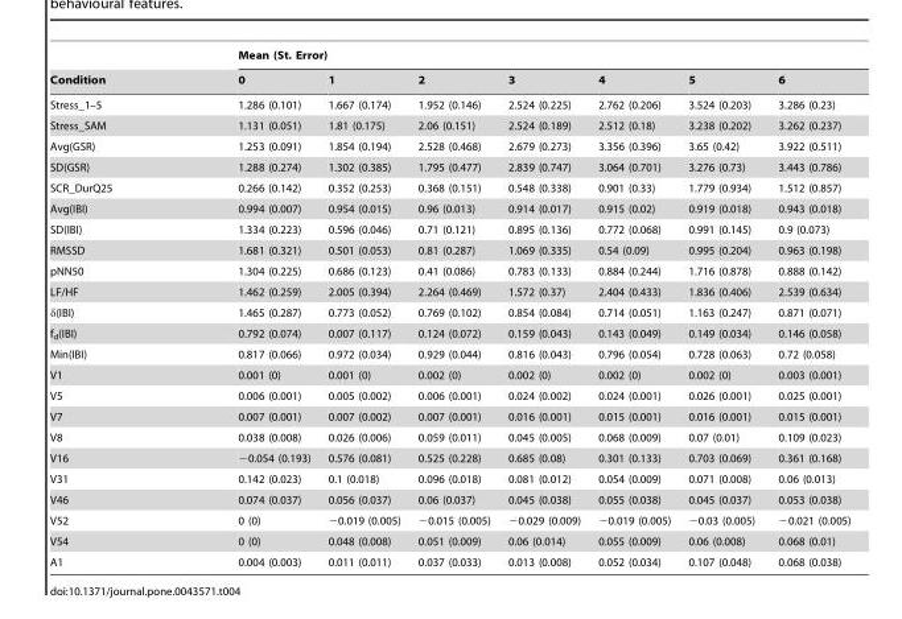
<table><thead><tr><td rowspan="2">Condition</td><td colspan="7">Mean (St. Error)</td></tr><tr><td>0</td><td>1</td><td>2</td><td>3</td><td>4</td><td>5</td><td>6</td></tr></thead><tbody><tr><td>Stress_1–5</td><td>1.286 (0.101)</td><td>1.667 (0.174)</td><td>1.952 (0.146)</td><td>2.524 (0.225)</td><td>2.762 (0.206)</td><td>3.524 (0.203)</td><td>3.286 (0.23)</td></tr><tr><td>Stress_SAM</td><td>1.131 (0.051)</td><td>1.81 (0.175)</td><td>2.06 (0.151)</td><td>2.524 (0.189)</td><td>2.512 (0.18)</td><td>3.238 (0.202)</td><td>3.262 (0.237)</td></tr><tr><td>Avg(GSR)</td><td>1.253 (0.091)</td><td>1.854 (0.194)</td><td>2.528 (0.468)</td><td>2.679 (0.273)</td><td>3.356 (0.396)</td><td>3.65 (0.42)</td><td>3.922 (0.511)</td></tr><tr><td>SD(GSR)</td><td>1.288 (0.274)</td><td>1.302 (0.385)</td><td>1.795 (0.477)</td><td>2.839 (0.747)</td><td>3.064 (0.701)</td><td>3.276 (0.73)</td><td>3.443 (0.786)</td></tr><tr><td>SCR_DurQ25</td><td>0.266 (0.142)</td><td>0.352 (0.253)</td><td>0.368 (0.151)</td><td>0.548 (0.338)</td><td>0.901 (0.33)</td><td>1.779 (0.934)</td><td>1.512 (0.857)</td></tr><tr><td>Avg(IBI)</td><td>0.994 (0.007)</td><td>0.954 (0.015)</td><td>0.96 (0.013)</td><td>0.914 (0.017)</td><td>0.915 (0.02)</td><td>0.919 (0.018)</td><td>0.943 (0.018)</td></tr><tr><td>SD(IBI)</td><td>1.334 (0.223)</td><td>0.596 (0.046)</td><td>0.71 (0.121)</td><td>0.895 (0.136)</td><td>0.772 (0.068)</td><td>0.991 (0.145)</td><td>0.9 (0.073)</td></tr><tr><td>RMSSD</td><td>1.681 (0.321)</td><td>0.501 (0.053)</td><td>0.81 (0.287)</td><td>1.069 (0.335)</td><td>0.54 (0.09)</td><td>0.995 (0.204)</td><td>0.963 (0.198)</td></tr><tr><td>pNN50</td><td>1.304 (0.225)</td><td>0.686 (0.123)</td><td>0.41 (0.086)</td><td>0.783 (0.133)</td><td>0.884 (0.244)</td><td>1.716 (0.878)</td><td>0.888 (0.142)</td></tr><tr><td>LF/HF</td><td>1.462 (0.259)</td><td>2.005 (0.394)</td><td>2.264 (0.469)</td><td>1.572 (0.37)</td><td>2.404 (0.433)</td><td>1.836 (0.406)</td><td>2.539 (0.634)</td></tr><tr><td>δ(IBI)</td><td>1.465 (0.287)</td><td>0.773 (0.052)</td><td>0.769 (0.102)</td><td>0.854 (0.084)</td><td>0.714 (0.051)</td><td>1.163 (0.247)</td><td>0.871 (0.071)</td></tr><tr><td>f<sub>d</sub>(IBI)</td><td>0.792 (0.074)</td><td>0.007 (0.117)</td><td>0.124 (0.072)</td><td>0.159 (0.043)</td><td>0.143 (0.049)</td><td>0.149 (0.034)</td><td>0.146 (0.058)</td></tr><tr><td>Min(IBI)</td><td>0.817 (0.066)</td><td>0.972 (0.034)</td><td>0.929 (0.044)</td><td>0.816 (0.043)</td><td>0.796 (0.054)</td><td>0.728 (0.063)</td><td>0.72 (0.058)</td></tr><tr><td>V1</td><td>0.001 (0)</td><td>0.001 (0)</td><td>0.002 (0)</td><td>0.002 (0)</td><td>0.002 (0)</td><td>0.002 (0)</td><td>0.003 (0.001)</td></tr><tr><td>V5</td><td>0.006 (0.001)</td><td>0.005 (0.002)</td><td>0.006 (0.001)</td><td>0.024 (0.002)</td><td>0.024 (0.001)</td><td>0.026 (0.001)</td><td>0.025 (0.001)</td></tr><tr><td>V7</td><td>0.007 (0.001)</td><td>0.007 (0.002)</td><td>0.007 (0.001)</td><td>0.016 (0.001)</td><td>0.015 (0.001)</td><td>0.016 (0.001)</td><td>0.015 (0.001)</td></tr><tr><td>V8</td><td>0.038 (0.008)</td><td>0.026 (0.006)</td><td>0.059 (0.011)</td><td>0.045 (0.005)</td><td>0.068 (0.009)</td><td>0.07 (0.01)</td><td>0.109 (0.023)</td></tr><tr><td>V16</td><td>−0.054 (0.193)</td><td>0.576 (0.081)</td><td>0.525 (0.228)</td><td>0.685 (0.08)</td><td>0.301 (0.133)</td><td>0.703 (0.069)</td><td>0.361 (0.168)</td></tr><tr><td>V31</td><td>0.142 (0.023)</td><td>0.1 (0.018)</td><td>0.096 (0.018)</td><td>0.081 (0.012)</td><td>0.054 (0.009)</td><td>0.071 (0.008)</td><td>0.06 (0.013)</td></tr><tr><td>V46</td><td>0.074 (0.037)</td><td>0.056 (0.037)</td><td>0.06 (0.037)</td><td>0.045 (0.038)</td><td>0.055 (0.038)</td><td>0.045 (0.037)</td><td>0.053 (0.038)</td></tr><tr><td>V52</td><td>0 (0)</td><td>−0.019 (0.005)</td><td>−0.015 (0.005)</td><td>−0.029 (0.009)</td><td>−0.019 (0.005)</td><td>−0.03 (0.005)</td><td>−0.021 (0.005)</td></tr><tr><td>V54</td><td>0 (0)</td><td>0.048 (0.008)</td><td>0.051 (0.009)</td><td>0.06 (0.014)</td><td>0.055 (0.009)</td><td>0.06 (0.008)</td><td>0.068 (0.01)</td></tr><tr><td>A1</td><td>0.004 (0.003)</td><td>0.011 (0.011)</td><td>0.037 (0.033)</td><td>0.013 (0.008)</td><td>0.052 (0.034)</td><td>0.107 (0.048)</td><td>0.068 (0.038)</td></tr></tbody></table>